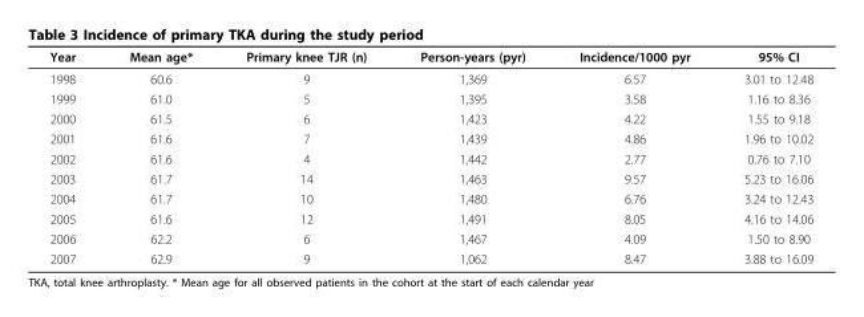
<table><thead><tr><td>Year</td><td>Mean age*</td><td>Primary knee TJR (n)</td><td>Person-years (pyr)</td><td>Incidence/1000 pyr</td><td>95% CI</td></tr></thead><tbody><tr><td>1998</td><td>60.6</td><td>9</td><td>1,369</td><td>6.57</td><td>3.01 to 12.48</td></tr><tr><td>1999</td><td>61.0</td><td>5</td><td>1,395</td><td>3.58</td><td>1.16 to 8.36</td></tr><tr><td>2000</td><td>61.5</td><td>6</td><td>1,423</td><td>4.22</td><td>1.55 to 9.18</td></tr><tr><td>2001</td><td>61.6</td><td>7</td><td>1,439</td><td>4.86</td><td>1.96 to 10.02</td></tr><tr><td>2002</td><td>61.6</td><td>4</td><td>1,442</td><td>2.77</td><td>0.76 to 7.10</td></tr><tr><td>2003</td><td>61.7</td><td>14</td><td>1,463</td><td>9.57</td><td>5.23 to 16.06</td></tr><tr><td>2004</td><td>61.7</td><td>10</td><td>1,480</td><td>6.76</td><td>3.24 to 12.43</td></tr><tr><td>2005</td><td>61.6</td><td>12</td><td>1,491</td><td>8.05</td><td>4.16 to 14.06</td></tr><tr><td>2006</td><td>62.2</td><td>6</td><td>1,467</td><td>4.09</td><td>1.50 to 8.90</td></tr><tr><td>2007</td><td>62.9</td><td>9</td><td>1,062</td><td>8.47</td><td>3.88 to 16.09</td></tr></tbody></table>